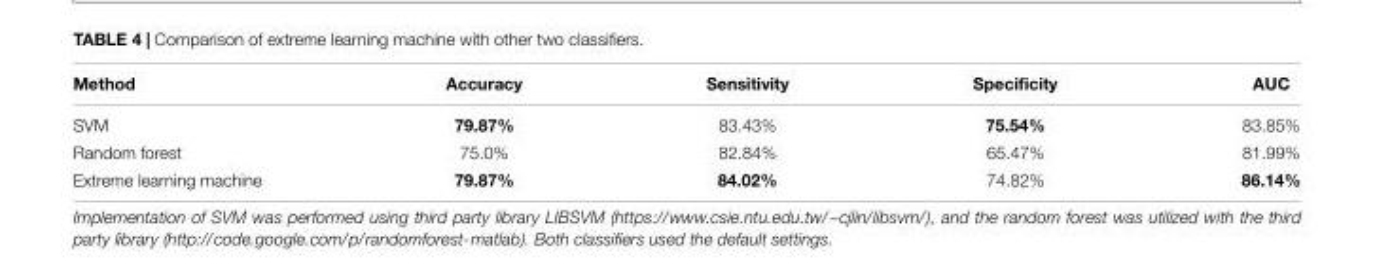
<table><thead><tr><td>Method</td><td>Accuracy</td><td>Sensitivity</td><td>Specificity</td><td>AUC</td></tr></thead><tbody><tr><td>SVM</td><td>79.87%</td><td>83.43%</td><td>75.54%</td><td>83.85%</td></tr><tr><td>Random forest</td><td>75.0%</td><td>82.84%</td><td>65.47%</td><td>81.99%</td></tr><tr><td>Extreme learning machine</td><td>79.87%</td><td>84.02%</td><td>74.82%</td><td>86.14%</td></tr></tbody></table>